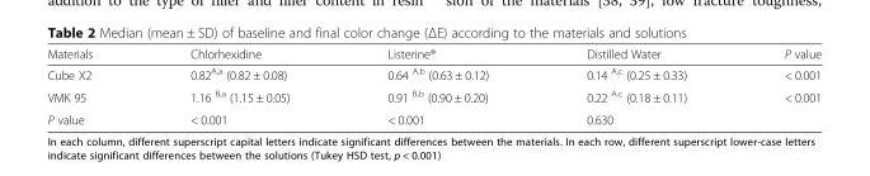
<table><thead><tr><td>Materials</td><td>Chlorhexidine</td><td>Listerine®</td><td>Distilled Water</td><td>P value</td></tr></thead><tbody><tr><td>Cube X2</td><td>0.82<sup>A,a</sup> (0.82 ± 0.08)</td><td>0.64 <sup>A,b</sup> (0.63 ± 0.12)</td><td>0.14 <sup>A,c</sup> (0.25 ± 0.33)</td><td>&lt; 0.001</td></tr><tr><td>VMK 95</td><td>1.16 <sup>B,a</sup> (1.15 ± 0.05)</td><td>0.91 <sup>B,b</sup> (0.90 ± 0.20)</td><td>0.22 <sup>A.c</sup> (0.18 ± 0.11)</td><td>&lt; 0.001</td></tr><tr><td>P value</td><td>&lt; 0.001</td><td>&lt; 0.001</td><td>0.630</td><td></td></tr></tbody></table>